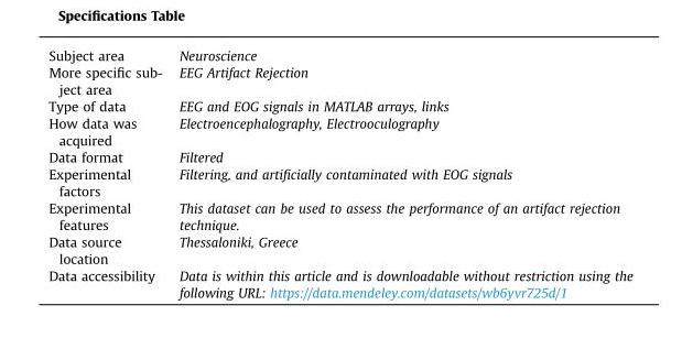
<table><tbody><tr><td>Subject area</td><td>Neuroscience</td></tr><tr><td>More specific sub- ject area</td><td>EEG Artifact Rejection</td></tr><tr><td>Type of data</td><td>EEG and EOG signals in MATLAB arrays, links</td></tr><tr><td>How data was acquired</td><td>Electroencephalography, Electrooculography</td></tr><tr><td>Data format</td><td>Filtered</td></tr><tr><td>Experimental factors</td><td>Filtering, and artificially contaminated with EOG signals</td></tr><tr><td>Experimental features</td><td>This dataset can be used to assess the performance of an artifact rejection technique.</td></tr><tr><td>Data source location</td><td>Thessaloniki, Greece</td></tr><tr><td>Data accessibility</td><td>Data is within this article and is downloadable without restriction using the following URL: https://data.mendeley.com/datasets/wb6yvr725d/1</td></tr></tbody></table>